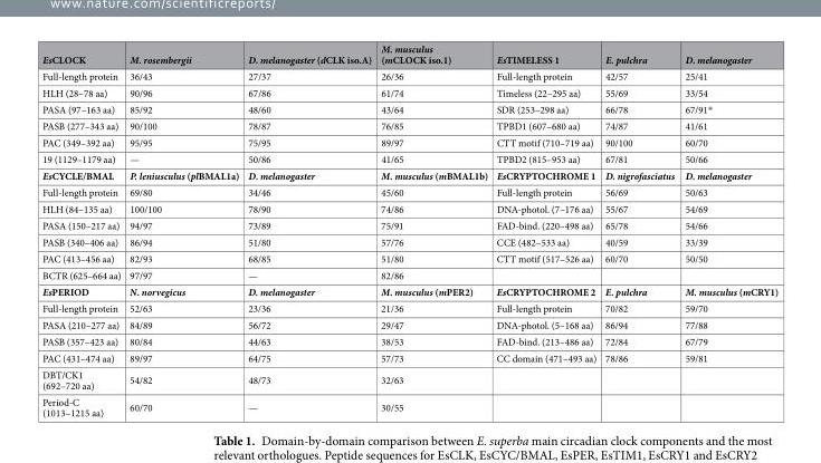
<table><thead><tr><td>EsCLOCK</td><td>M. rosembergii</td><td>D. melanogaster (dCLK iso.A)</td><td>M. musculus (mCLOCK iso.1)</td><td>EsTIMELESS 1</td><td>E. pulchra</td><td>D. melanogaster</td></tr></thead><tbody><tr><td>Full-length protein</td><td>36/43</td><td>27/37</td><td>26/36</td><td>Full-length protein</td><td>42/57</td><td>25/41</td></tr><tr><td>HLH (28–78 aa)</td><td>90/96</td><td>67/86</td><td>61/74</td><td>Timeless (22–295 aa)</td><td>55/69</td><td>33/54</td></tr><tr><td>PASA (97–163 aa)</td><td>85/92</td><td>48/60</td><td>43/64</td><td>SDR (253–298 aa)</td><td>66/78</td><td>67/91*</td></tr><tr><td>PASB (277–343 aa)</td><td>90/100</td><td>78/87</td><td>76/85</td><td>TPBD1 (607–680 aa)</td><td>74/87</td><td>41/61</td></tr><tr><td>PAC (349–392 aa)</td><td>95/95</td><td>75/95</td><td>89/97</td><td>CTT motif (710–719 aa)</td><td>90/100</td><td>60/70</td></tr><tr><td>19 (1129–1179 aa)</td><td>—</td><td>50/86</td><td>41/65</td><td>TPBD2 (815–953 aa)</td><td>67/81</td><td>50/66</td></tr><tr><td>EsCYCLE/BMAL</td><td>P. leniusculus (plBMAL1a)</td><td>D. melanogaster</td><td>M. musculus (mBMAL1b)</td><td>EsCRYPTOCHROME 1</td><td>D. nigrofasciatus</td><td>D. melanogaster</td></tr><tr><td>Full-length protein</td><td>69/80</td><td>34/46</td><td>45/60</td><td>Full-length protein</td><td>56/69</td><td>50/63</td></tr><tr><td>HLH (84–135 aa)</td><td>100/100</td><td>78/90</td><td>74/86</td><td>DNA-photol. (7–176 aa)</td><td>55/67</td><td>54/69</td></tr><tr><td>PASA (150–217 aa)</td><td>94/97</td><td>73/89</td><td>75/91</td><td>FAD-bind. (220–498 aa)</td><td>65/78</td><td>54/66</td></tr><tr><td>PASB (340–406 aa)</td><td>86/94</td><td>51/80</td><td>57/76</td><td>CCE (482–533 aa)</td><td>40/59</td><td>33/39</td></tr><tr><td>PAC (413–456 aa)</td><td>82/93</td><td>68/85</td><td>51/80</td><td>CTT motif (517–526 aa)</td><td>60/70</td><td>50/50</td></tr><tr><td>BCTR (625–664 aa)</td><td>97/97</td><td>—</td><td>82/86</td><td></td><td></td><td></td></tr><tr><td>EsPERIOD</td><td>N. norvegicus</td><td>D. melanogaster</td><td>M. musculus (mPER2)</td><td>EsCRYPTOCHROME 2</td><td>E. pulchra</td><td>M. musculus (mCRY1)</td></tr><tr><td>Full-length protein</td><td>52/63</td><td>23/36</td><td>21/36</td><td>Full-length protein</td><td>70/82</td><td>59/70</td></tr><tr><td>PASA (210–277 aa)</td><td>84/89</td><td>56/72</td><td>29/47</td><td>DNA-photol. (5–168 aa)</td><td>86/94</td><td>77/88</td></tr><tr><td>PASB (357–423 aa)</td><td>80/84</td><td>44/63</td><td>38/53</td><td>FAD-bind. (213–486 aa)</td><td>72/84</td><td>67/79</td></tr><tr><td>PAC (431–474 aa)</td><td>89/97</td><td>64/75</td><td>57/73</td><td>CC domain (471–493 aa)</td><td>78/86</td><td>59/81</td></tr><tr><td>DBT/CK1 (692–720 aa)</td><td>54/82</td><td>48/73</td><td>32/63</td><td></td><td></td><td></td></tr><tr><td>Period-C (1013–1215 aa)</td><td>60/70</td><td>—</td><td>30/55</td><td></td><td></td><td></td></tr></tbody></table>